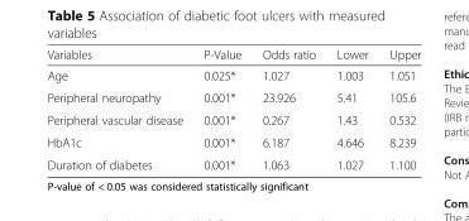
<table><thead><tr><td>Variables</td><td>P-Value</td><td>Odds ratio</td><td>Lower</td><td>Upper</td></tr></thead><tbody><tr><td>Age</td><td>0.025*</td><td>1.027</td><td>1.003</td><td>1.051</td></tr><tr><td>Peripheral neuropathy</td><td>0.001*</td><td>23.926</td><td>5.41</td><td>105.6</td></tr><tr><td>Peripheral vascular disease</td><td>0.001*</td><td>0.267</td><td>1.43</td><td>0.532</td></tr><tr><td>HbA1c</td><td>0.001*</td><td>6.187</td><td>4.646</td><td>8.239</td></tr><tr><td>Duration of diabetes</td><td>0.001*</td><td>1.063</td><td>1.027</td><td>1.100</td></tr></tbody></table>